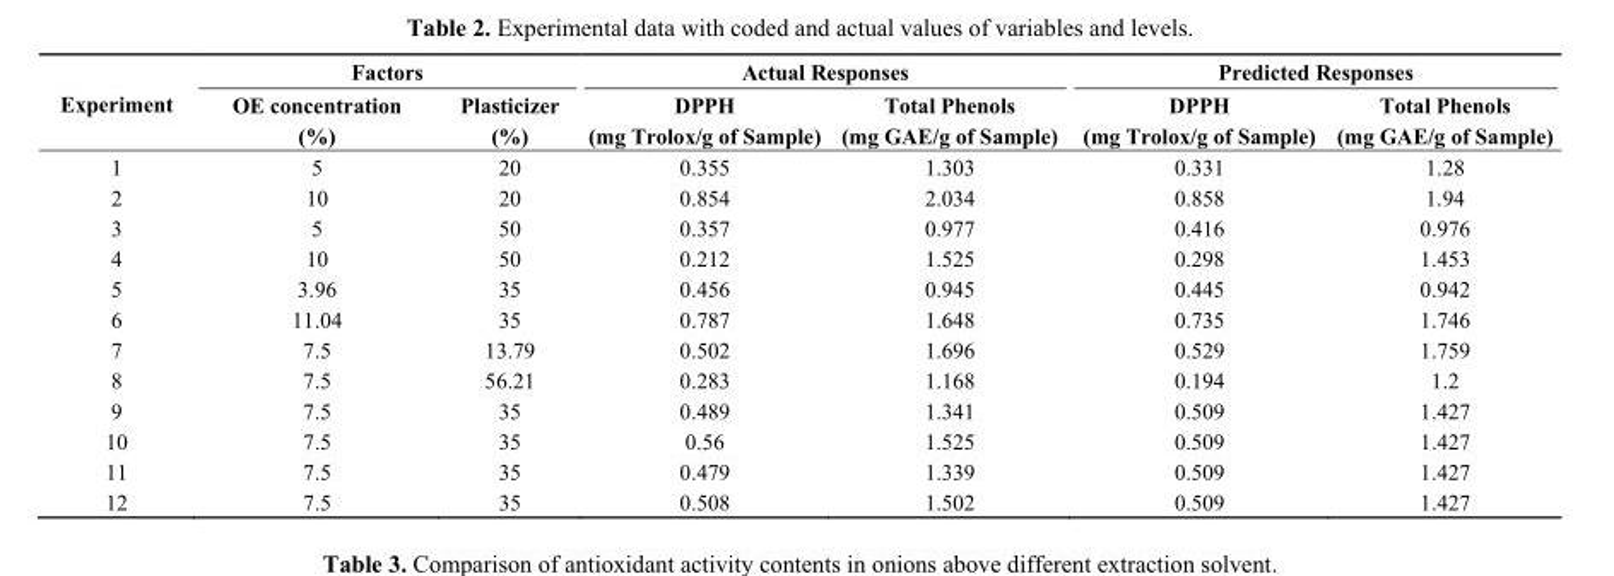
<table><thead><tr><td rowspan="3">Experiment</td><td colspan="2">Factors</td><td colspan="2">Actual Responses</td><td colspan="2">Predicted Responses</td></tr><tr><td rowspan="2">OE concentration (%)</td><td rowspan="2">Plasticizer (%)</td><td rowspan="2">DPPH (mg Trolox/g of Sample)</td><td rowspan="2">Total Phenols (mg GAE/g of Sample)</td><td rowspan="2">DPPH (mg Trolox/g of Sample)</td><td rowspan="2">Total Phenols (mg GAE/g of Sample)</td></tr><tr></tr></thead><tbody><tr><td>1</td><td>5</td><td>20</td><td>0.355</td><td>1.303</td><td>0.331</td><td>1.28</td></tr><tr><td>2</td><td>10</td><td>20</td><td>0.854</td><td>2.034</td><td>0.858</td><td>1.94</td></tr><tr><td>3</td><td>5</td><td>50</td><td>0.357</td><td>0.977</td><td>0.416</td><td>0.976</td></tr><tr><td>4</td><td>10</td><td>50</td><td>0.212</td><td>1.525</td><td>0.298</td><td>1.453</td></tr><tr><td>5</td><td>3.96</td><td>35</td><td>0.456</td><td>0.945</td><td>0.445</td><td>0.942</td></tr><tr><td>6</td><td>11.04</td><td>35</td><td>0.787</td><td>1.648</td><td>0.735</td><td>1.746</td></tr><tr><td>7</td><td>7.5</td><td>13.79</td><td>0.502</td><td>1.696</td><td>0.529</td><td>1.759</td></tr><tr><td>8</td><td>7.5</td><td>56.21</td><td>0.283</td><td>1.168</td><td>0.194</td><td>1.2</td></tr><tr><td>9</td><td>7.5</td><td>35</td><td>0.489</td><td>1.341</td><td>0.509</td><td>1.427</td></tr><tr><td>10</td><td>7.5</td><td>35</td><td>0.56</td><td>1.525</td><td>0.509</td><td>1.427</td></tr><tr><td>11</td><td>7.5</td><td>35</td><td>0.479</td><td>1.339</td><td>0.509</td><td>1.427</td></tr><tr><td>12</td><td>7.5</td><td>35</td><td>0.508</td><td>1.502</td><td>0.509</td><td>1.427</td></tr></tbody></table>